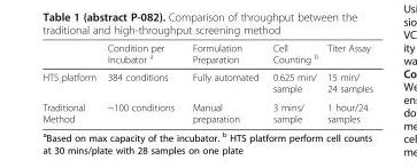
<table><thead><tr><td></td><td>Condition per Incubator <sup>a</sup></td><td>Formulation Preparation</td><td>Cell Counting <sup>b</sup></td><td>Titer Assay</td></tr></thead><tbody><tr><td>HTS platform</td><td>384 conditions</td><td>Fully automated</td><td>0.625 min/ sample</td><td>15 min/ 24 samples</td></tr><tr><td>Traditional Method</td><td>~100 conditions</td><td>Manual preparation</td><td>3 mins/ sample</td><td>1 hour/24 samples</td></tr></tbody></table>